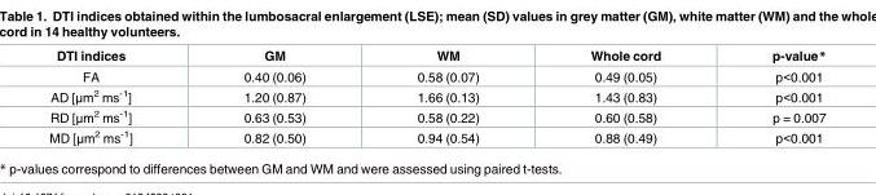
<table><thead><tr><td>DTI indices</td><td>GM</td><td>WM</td><td>Whole cord</td><td>p-value*</td></tr></thead><tbody><tr><td>FA</td><td>0.40 (0.06)</td><td>0.58 (0.07)</td><td>0.49 (0.05)</td><td>p&lt;0.001</td></tr><tr><td>AD [μm<sup>2</sup> ms<sup>-1</sup>]</td><td>1.20 (0.87)</td><td>1.66 (0.13)</td><td>1.43 (0.83)</td><td>p&lt;0.001</td></tr><tr><td>RD [μm<sup>2</sup> ms<sup>-1</sup>]</td><td>0.63 (0.53)</td><td>0.58 (0.22)</td><td>0.60 (0.58)</td><td>p = 0.007</td></tr><tr><td>MD [μm<sup>2</sup> ms<sup>-1</sup>]</td><td>0.82 (0.50)</td><td>0.94 (0.54)</td><td>0.88 (0.49)</td><td>p&lt;0.001</td></tr></tbody></table>